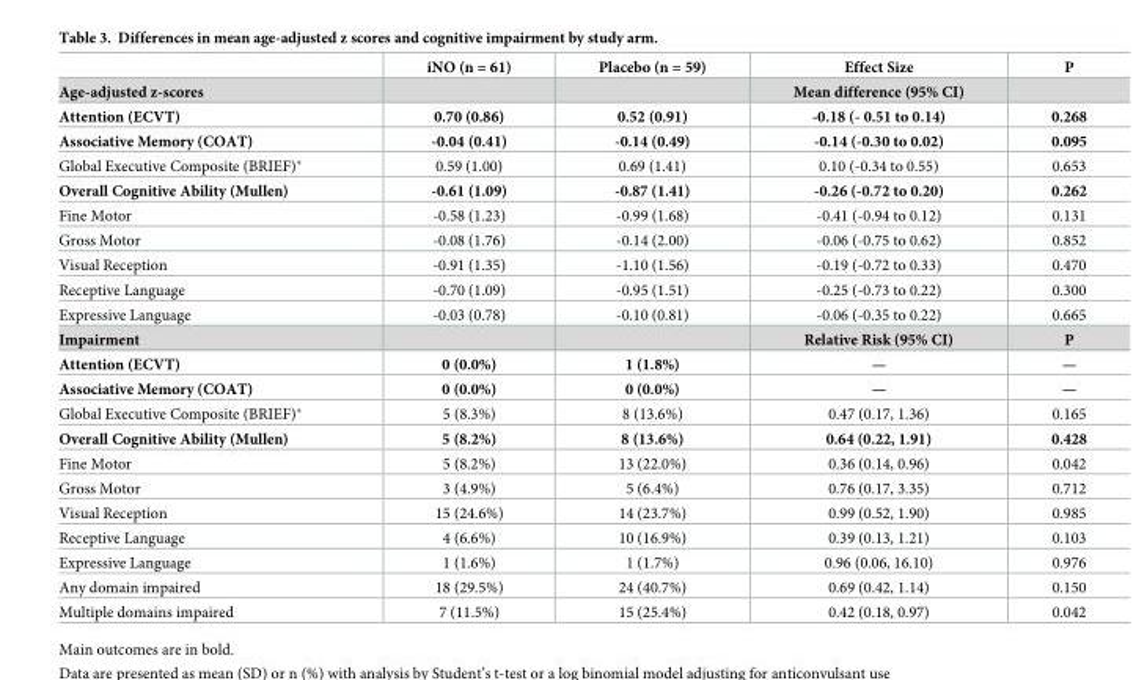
<table><thead><tr><td></td><td>iNO (n = 61)</td><td>Placebo (n = 59)</td><td>Effect Size</td><td>P</td></tr></thead><tbody><tr><td>Age-adjusted z-scores</td><td></td><td></td><td>Mean difference (95% CI)</td><td></td></tr><tr><td>Attention (ECVT)</td><td>0.70 (0.86)</td><td>0.52 (0.91)</td><td>-0.18 (- 0.51 to 0.14)</td><td>0.268</td></tr><tr><td>Associative Memory (COAT)</td><td>-0.04 (0.41)</td><td>-0.14 (0.49)</td><td>-0.14 (-0.30 to 0.02)</td><td>0.095</td></tr><tr><td>Global Executive Composite (BRIEF)*</td><td>0.59 (1.00)</td><td>0.69 (1.41)</td><td>0.10 (-0.34 to 0.55)</td><td>0.653</td></tr><tr><td>Overall Cognitive Ability (Mullen)</td><td>-0.61 (1.09)</td><td>-0.87 (1.41)</td><td>-0.26 (-0.72 to 0.20)</td><td>0.262</td></tr><tr><td>Fine Motor</td><td>-0.58 (1.23)</td><td>-0.99 (1.68)</td><td>-0.41 (-0.94 to 0.12)</td><td>0.131</td></tr><tr><td>Gross Motor</td><td>-0.08 (1.76)</td><td>-0.14 (2.00)</td><td>-0.06 (-0.75 to 0.62)</td><td>0.852</td></tr><tr><td>Visual Reception</td><td>-0.91 (1.35)</td><td>-1.10 (1.56)</td><td>-0.19 (-0.72 to 0.33)</td><td>0.470</td></tr><tr><td>Receptive Language</td><td>-0.70 (1.09)</td><td>-0.95 (1.51)</td><td>-0.25 (-0.73 to 0.22)</td><td>0.300</td></tr><tr><td>Expressive Language</td><td>-0.03 (0.78)</td><td>-0.10 (0.81)</td><td>-0.06 (-0.35 to 0.22)</td><td>0.665</td></tr><tr><td>Impairment</td><td></td><td></td><td>Relative Risk (95% CI)</td><td>P</td></tr><tr><td>Attention (ECVT)</td><td>0 (0.0%)</td><td>1 (1.8%)</td><td>—</td><td>—</td></tr><tr><td>Associative Memory (COAT)</td><td>0 (0.0%)</td><td>0 (0.0%)</td><td>—</td><td>—</td></tr><tr><td>Global Executive Composite (BRIEF)*</td><td>5 (8.3%)</td><td>8 (13.6%)</td><td>0.47 (0.17, 1.36)</td><td>0.165</td></tr><tr><td>Overall Cognitive Ability (Mullen)</td><td>5 (8.2%)</td><td>8 (13.6%)</td><td>0.64 (0.22, 1.91)</td><td>0.428</td></tr><tr><td>Fine Motor</td><td>5 (8.2%)</td><td>13 (22.0%)</td><td>0.36 (0.14, 0.96)</td><td>0.042</td></tr><tr><td>Gross Motor</td><td>3 (4.9%)</td><td>5 (6.4%)</td><td>0.76 (0.17, 3.35)</td><td>0.712</td></tr><tr><td>Visual Reception</td><td>15 (24.6%)</td><td>14 (23.7%)</td><td>0.99 (0.52, 1.90)</td><td>0.985</td></tr><tr><td>Receptive Language</td><td>4 (6.6%)</td><td>10 (16.9%)</td><td>0.39 (0.13, 1.21)</td><td>0.103</td></tr><tr><td>Expressive Language</td><td>1 (1.6%)</td><td>1 (1.7%)</td><td>0.96 (0.06, 16.10)</td><td>0.976</td></tr><tr><td>Any domain impaired</td><td>18 (29.5%)</td><td>24 (40.7%)</td><td>0.69 (0.42, 1.14)</td><td>0.150</td></tr><tr><td>Multiple domains impaired</td><td>7 (11.5%)</td><td>15 (25.4%)</td><td>0.42 (0.18, 0.97)</td><td>0.042</td></tr></tbody></table>